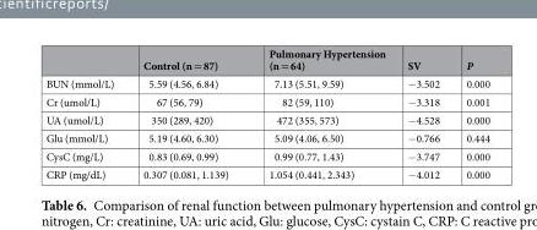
<table><thead><tr><td></td><td>Control (n = 87)</td><td>Pulmonary Hypertension (n = 64)</td><td>SV</td><td>P</td></tr></thead><tbody><tr><td>BUN (mmol/L)</td><td>5.59 (4.56, 6.84)</td><td>7.13 (5.51, 9.59)</td><td>−3.502</td><td>0.000</td></tr><tr><td>Cr (umol/L)</td><td>67 (56, 79)</td><td>82 (59, 110)</td><td>−3.318</td><td>0.001</td></tr><tr><td>UA (umol/L)</td><td>350 (289, 420)</td><td>472 (355, 573)</td><td>−4.528</td><td>0.000</td></tr><tr><td>Glu (mmol/L)</td><td>5.19 (4.60, 6.30)</td><td>5.09 (4.06, 6.50)</td><td>−0.766</td><td>0.444</td></tr><tr><td>CysC (mg/L)</td><td>0.83 (0.69, 0.99)</td><td>0.99 (0.77, 1.43)</td><td>−3.747</td><td>0.000</td></tr><tr><td>CRP (mg/dL)</td><td>0.307 (0.081, 1.139)</td><td>1.054 (0.441, 2.343)</td><td>−4.012</td><td>0.000</td></tr></tbody></table>